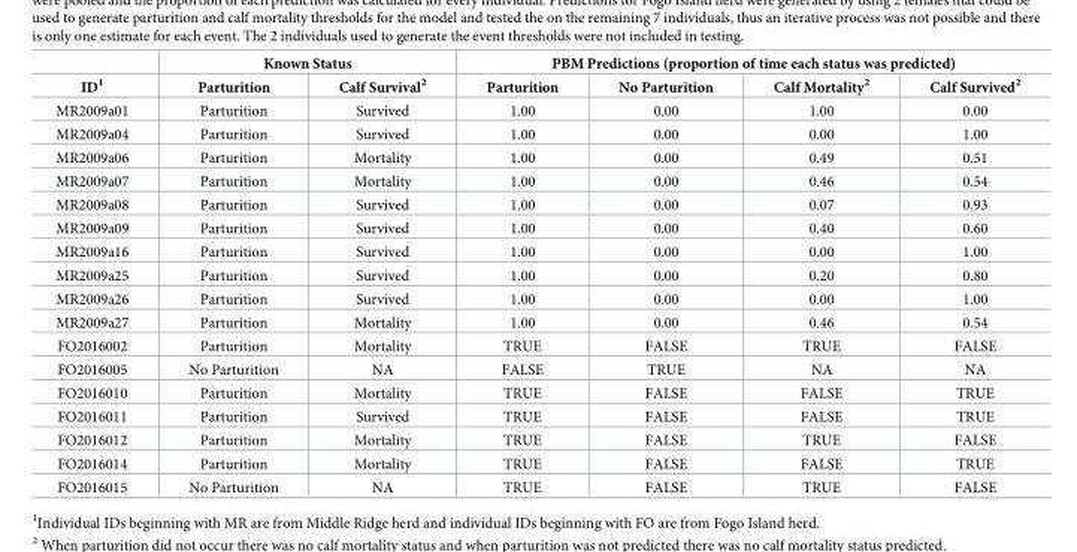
<table><thead><tr><td rowspan="2">ID<sup>1</sup></td><td colspan="2">Known Status</td><td colspan="4">PBM Predictions (proportion of time each status was predicted)</td></tr><tr><td>Parturition</td><td>Calf Survival<sup>2</sup></td><td>Parturition</td><td>No Parturition</td><td>Calf Mortality<sup>2</sup></td><td>Calf Survived<sup>2</sup></td></tr></thead><tbody><tr><td>MR2009a01</td><td>Parturition</td><td>Survived</td><td>1.00</td><td>0.00</td><td>1.00</td><td>0.00</td></tr><tr><td>MR2009a04</td><td>Parturition</td><td>Survived</td><td>1.00</td><td>0.00</td><td>0.00</td><td>1.00</td></tr><tr><td>MR2009a06</td><td>Parturition</td><td>Mortality</td><td>1.00</td><td>0.00</td><td>0.49</td><td>0.51</td></tr><tr><td>MR2009a07</td><td>Parturition</td><td>Mortality</td><td>1.00</td><td>0.00</td><td>0.46</td><td>0.54</td></tr><tr><td>MR2009a08</td><td>Parturition</td><td>Survived</td><td>1.00</td><td>0.00</td><td>0.07</td><td>0.93</td></tr><tr><td>MR2009a09</td><td>Parturition</td><td>Survived</td><td>1.00</td><td>0.00</td><td>0.40</td><td>0.60</td></tr><tr><td>MR2009a16</td><td>Parturition</td><td>Survived</td><td>1.00</td><td>0.00</td><td>0.00</td><td>1.00</td></tr><tr><td>MR2009a25</td><td>Parturition</td><td>Survived</td><td>1.00</td><td>0.00</td><td>0.20</td><td>0.80</td></tr><tr><td>MR2009a26</td><td>Parturition</td><td>Survived</td><td>1.00</td><td>0.00</td><td>0.00</td><td>1.00</td></tr><tr><td>MR2009a27</td><td>Parturition</td><td>Mortality</td><td>1.00</td><td>0.00</td><td>0.46</td><td>0.54</td></tr><tr><td>FO2016002</td><td>Parturition</td><td>Mortality</td><td>TRUE</td><td>FALSE</td><td>TRUE</td><td>FALSE</td></tr><tr><td>FO2016005</td><td>No Parturition</td><td>NA</td><td>FALSE</td><td>TRUE</td><td>NA</td><td>NA</td></tr><tr><td>FO2016010</td><td>Parturition</td><td>Mortality</td><td>TRUE</td><td>FALSE</td><td>FALSE</td><td>TRUE</td></tr><tr><td>FO2016011</td><td>Parturition</td><td>Survived</td><td>TRUE</td><td>FALSE</td><td>FALSE</td><td>TRUE</td></tr><tr><td>FO2016012</td><td>Parturition</td><td>Mortality</td><td>TRUE</td><td>FALSE</td><td>TRUE</td><td>FALSE</td></tr><tr><td>FO2016014</td><td>Parturition</td><td>Mortality</td><td>TRUE</td><td>FALSE</td><td>FALSE</td><td>TRUE</td></tr><tr><td>FO2016015</td><td>No Parturition</td><td>NA</td><td>TRUE</td><td>FALSE</td><td>TRUE</td><td>FALSE</td></tr></tbody></table>